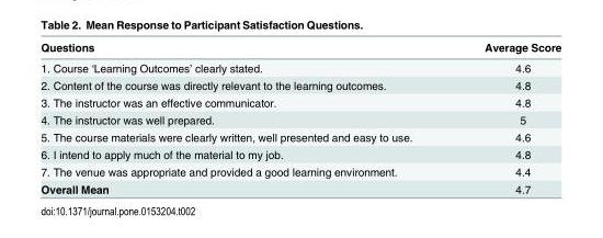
<table><thead><tr><td>Questions</td><td>Average Score</td></tr></thead><tbody><tr><td>1. Course ‘Learning Outcomes’ clearly stated.</td><td>4.6</td></tr><tr><td>2. Content of the course was directly relevant to the learning outcomes.</td><td>4.8</td></tr><tr><td>3. The instructor was an effective communicator.</td><td>4.8</td></tr><tr><td>4. The instructor was well prepared.</td><td>5</td></tr><tr><td>5. The course materials were clearly written, well presented and easy to use.</td><td>4.6</td></tr><tr><td>6. I intend to apply much of the material to my job.</td><td>4.8</td></tr><tr><td>7. The venue was appropriate and provided a good learning environment.</td><td>4.4</td></tr><tr><td>Overall Mean</td><td>4.7</td></tr></tbody></table>